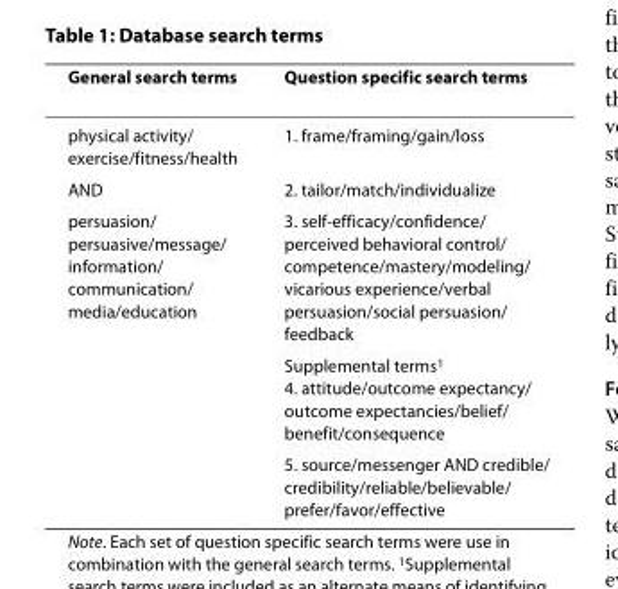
<table><thead><tr><td>General search terms</td><td>Question specific search terms</td></tr></thead><tbody><tr><td>physical activity/ exercise/fitness/health</td><td>1. frame/framing/gain/loss</td></tr><tr><td>AND</td><td>2. tailor/match/individualize</td></tr><tr><td rowspan="3">persuasion/ persuasive/message/ information/ communication/ media/education</td><td>3. self-efficacy/confidence/ perceived behavioral control/ competence/mastery/modeling/ vicarious experience/verbal persuasion/social persuasion/ feedback</td></tr><tr><td>Supplemental terms<sup>1</sup> 4. attitude/outcome expectancy/ outcome expectancies/belief/ benefit/consequence</td></tr><tr><td>5. source/messenger AND credible/ credibility/reliable/believable/ prefer/favor/effective</td></tr></tbody></table>